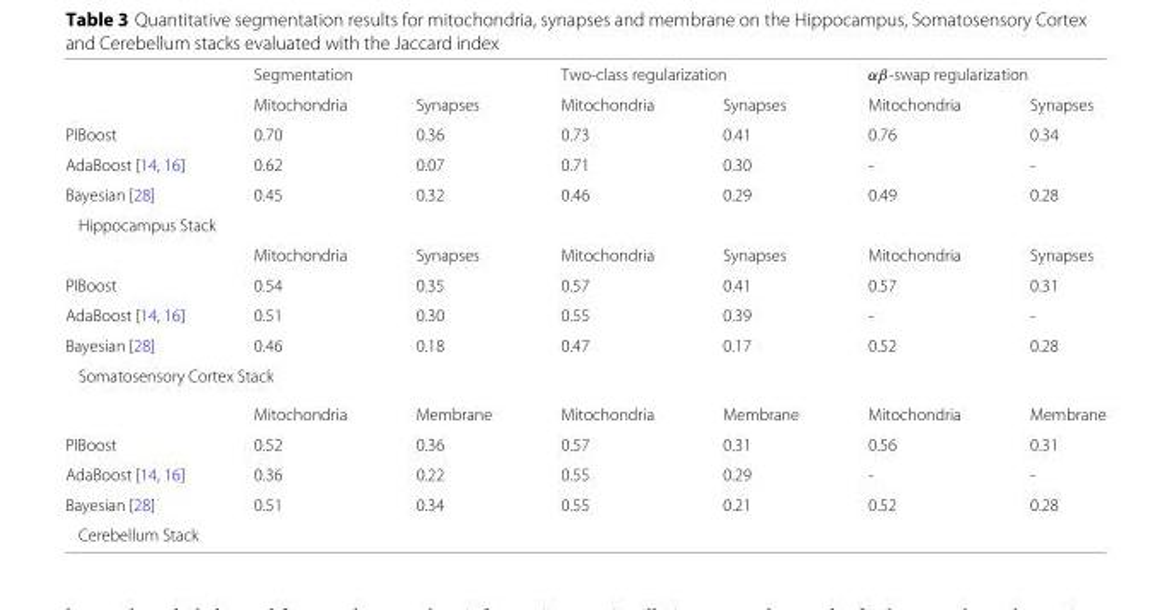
<table><thead><tr><td rowspan="2"></td><td colspan="2">Segmentation</td><td colspan="2">Two-class regularization</td><td colspan="2">αβ-swap regularization</td></tr><tr><td>Mitochondria</td><td>Synapses</td><td>Mitochondria</td><td>Synapses</td><td>Mitochondria</td><td>Synapses</td></tr></thead><tbody><tr><td>PIBoost</td><td>0.70</td><td>0.36</td><td>0.73</td><td>0.41</td><td>0.76</td><td>0.34</td></tr><tr><td>AdaBoost [14, 16]</td><td>0.62</td><td>0.07</td><td>0.71</td><td>0.30</td><td>-</td><td>-</td></tr><tr><td>Bayesian [28]</td><td>0.45</td><td>0.32</td><td>0.46</td><td>0.29</td><td>0.49</td><td>0.28</td></tr><tr><td colspan="7">Hippocampus Stack</td></tr><tr><td></td><td>Mitochondria</td><td>Synapses</td><td>Mitochondria</td><td>Synapses</td><td>Mitochondria</td><td>Synapses</td></tr><tr><td>PIBoost</td><td>0.54</td><td>0.35</td><td>0.57</td><td>0.41</td><td>0.57</td><td>0.31</td></tr><tr><td>AdaBoost [14, 16]</td><td>0.51</td><td>0.30</td><td>0.55</td><td>0.39</td><td>-</td><td>-</td></tr><tr><td>Bayesian [28]</td><td>0.46</td><td>0.18</td><td>0.47</td><td>0.17</td><td>0.52</td><td>0.28</td></tr><tr><td colspan="7">Somatosensory Cortex Stack</td></tr><tr><td></td><td>Mitochondria</td><td>Membrane</td><td>Mitochondria</td><td>Membrane</td><td>Mitochondria</td><td>Membrane</td></tr><tr><td>PIBoost</td><td>0.52</td><td>0.36</td><td>0.57</td><td>0.31</td><td>0.56</td><td>0.31</td></tr><tr><td>AdaBoost [14, 16]</td><td>0.36</td><td>0.22</td><td>0.55</td><td>0.29</td><td>-</td><td>-</td></tr><tr><td>Bayesian [28]</td><td>0.51</td><td>0.34</td><td>0.55</td><td>0.21</td><td>0.52</td><td>0.28</td></tr><tr><td colspan="4">Cerebellum Stack</td><td colspan="3"></td></tr></tbody></table>